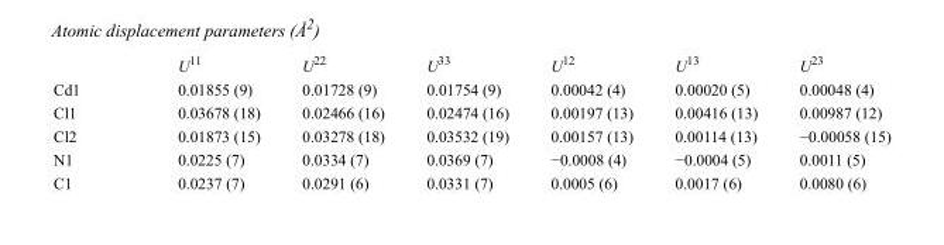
<table><thead><tr><td></td><td>U<sup>11</sup></td><td>U<sup>22</sup></td><td>U<sup>33</sup></td><td>U<sup>12</sup></td><td>U<sup>13</sup></td><td>U<sup>23</sup></td></tr></thead><tbody><tr><td>Cd1</td><td>0.01855 (9)</td><td>0.01728 (9)</td><td>0.01754 (9)</td><td>0.00042 (4)</td><td>0.00020 (5)</td><td>0.00048 (4)</td></tr><tr><td>Cl1</td><td>0.03678 (18)</td><td>0.02466 (16)</td><td>0.02474 (16)</td><td>0.00197 (13)</td><td>0.00416 (13)</td><td>0.00987 (12)</td></tr><tr><td>Cl2</td><td>0.01873 (15)</td><td>0.03278 (18)</td><td>0.03532 (19)</td><td>0.00157 (13)</td><td>0.00114 (13)</td><td>−0.00058 (15)</td></tr><tr><td>N1</td><td>0.0225 (7)</td><td>0.0334 (7)</td><td>0.0369 (7)</td><td>−0.0008 (4)</td><td>−0.0004 (5)</td><td>0.0011 (5)</td></tr><tr><td>C1</td><td>0.0237 (7)</td><td>0.0291 (6)</td><td>0.0331 (7)</td><td>0.0005 (6)</td><td>0.0017 (6)</td><td>0.0080 (6)</td></tr></tbody></table>